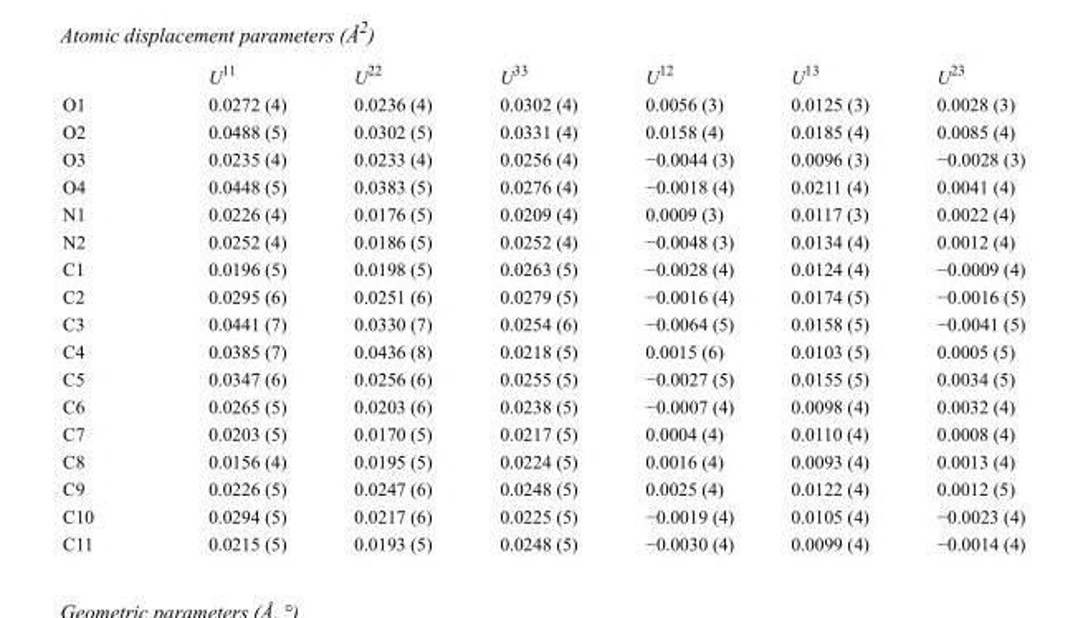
<table><thead><tr><td></td><td>U<sup>11</sup></td><td>U<sup>22</sup></td><td>U<sup>33</sup></td><td>U<sup>12</sup></td><td>U<sup>13</sup></td><td>U<sup>23</sup></td></tr></thead><tbody><tr><td>O1</td><td>0.0272 (4)</td><td>0.0236 (4)</td><td>0.0302 (4)</td><td>0.0056 (3)</td><td>0.0125 (3)</td><td>0.0028 (3)</td></tr><tr><td>O2</td><td>0.0488 (5)</td><td>0.0302 (5)</td><td>0.0331 (4)</td><td>0.0158 (4)</td><td>0.0185 (4)</td><td>0.0085 (4)</td></tr><tr><td>O3</td><td>0.0235 (4)</td><td>0.0233 (4)</td><td>0.0256 (4)</td><td>−0.0044 (3)</td><td>0.0096 (3)</td><td>−0.0028 (3)</td></tr><tr><td>O4</td><td>0.0448 (5)</td><td>0.0383 (5)</td><td>0.0276 (4)</td><td>−0.0018 (4)</td><td>0.0211 (4)</td><td>0.0041 (4)</td></tr><tr><td>N1</td><td>0.0226 (4)</td><td>0.0176 (5)</td><td>0.0209 (4)</td><td>0.0009 (3)</td><td>0.0117 (3)</td><td>0.0022 (4)</td></tr><tr><td>N2</td><td>0.0252 (4)</td><td>0.0186 (5)</td><td>0.0252 (4)</td><td>−0.0048 (3)</td><td>0.0134 (4)</td><td>0.0012 (4)</td></tr><tr><td>C1</td><td>0.0196 (5)</td><td>0.0198 (5)</td><td>0.0263 (5)</td><td>−0.0028 (4)</td><td>0.0124 (4)</td><td>−0.0009 (4)</td></tr><tr><td>C2</td><td>0.0295 (6)</td><td>0.0251 (6)</td><td>0.0279 (5)</td><td>−0.0016 (4)</td><td>0.0174 (5)</td><td>−0.0016 (5)</td></tr><tr><td>C3</td><td>0.0441 (7)</td><td>0.0330 (7)</td><td>0.0254 (6)</td><td>−0.0064 (5)</td><td>0.0158 (5)</td><td>−0.0041 (5)</td></tr><tr><td>C4</td><td>0.0385 (7)</td><td>0.0436 (8)</td><td>0.0218 (5)</td><td>0.0015 (6)</td><td>0.0103 (5)</td><td>0.0005 (5)</td></tr><tr><td>C5</td><td>0.0347 (6)</td><td>0.0256 (6)</td><td>0.0255 (5)</td><td>−0.0027 (5)</td><td>0.0155 (5)</td><td>0.0034 (5)</td></tr><tr><td>C6</td><td>0.0265 (5)</td><td>0.0203 (6)</td><td>0.0238 (5)</td><td>−0.0007 (4)</td><td>0.0098 (4)</td><td>0.0032 (4)</td></tr><tr><td>C7</td><td>0.0203 (5)</td><td>0.0170 (5)</td><td>0.0217 (5)</td><td>0.0004 (4)</td><td>0.0110 (4)</td><td>0.0008 (4)</td></tr><tr><td>C8</td><td>0.0156 (4)</td><td>0.0195 (5)</td><td>0.0224 (5)</td><td>0.0016 (4)</td><td>0.0093 (4)</td><td>0.0013 (4)</td></tr><tr><td>C9</td><td>0.0226 (5)</td><td>0.0247 (6)</td><td>0.0248 (5)</td><td>0.0025 (4)</td><td>0.0122 (4)</td><td>0.0012 (5)</td></tr><tr><td>C10</td><td>0.0294 (5)</td><td>0.0217 (6)</td><td>0.0225 (5)</td><td>−0.0019 (4)</td><td>0.0105 (4)</td><td>−0.0023 (4)</td></tr><tr><td>C11</td><td>0.0215 (5)</td><td>0.0193 (5)</td><td>0.0248 (5)</td><td>−0.0030 (4)</td><td>0.0099 (4)</td><td>−0.0014 (4)</td></tr></tbody></table>